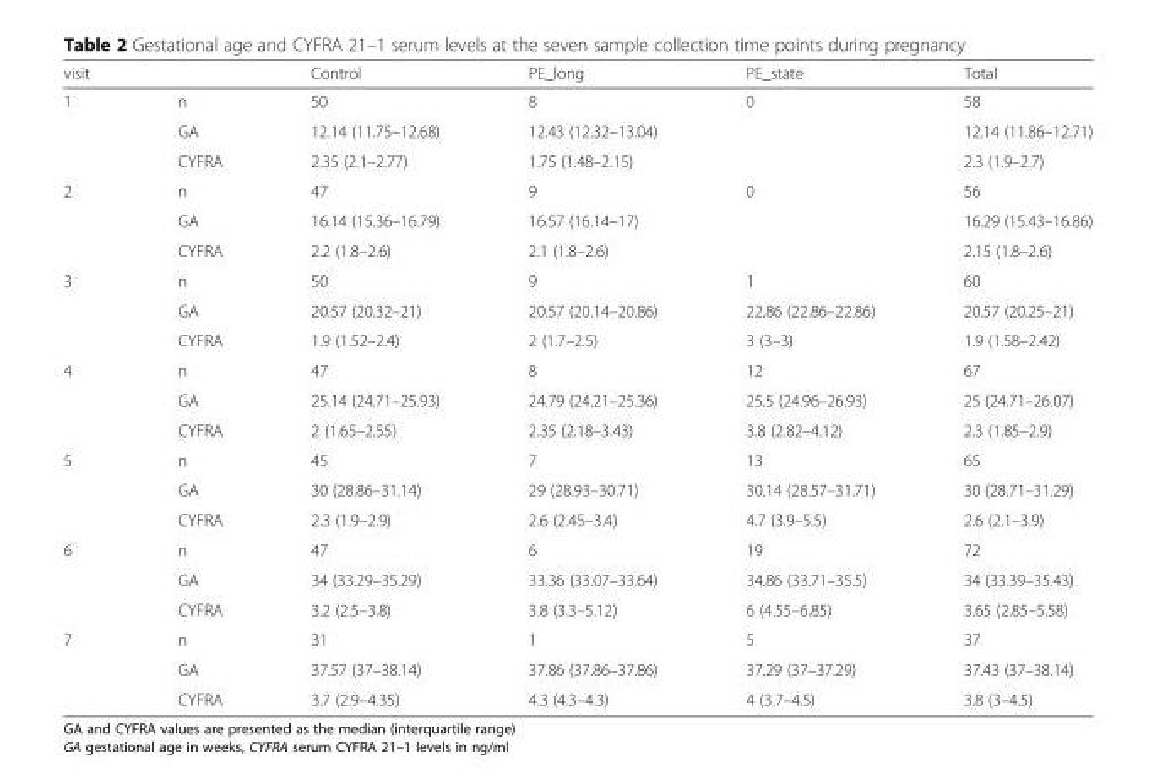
<table><thead><tr><td>visit</td><td></td><td>Control</td><td>PE_long</td><td>PE_state</td><td>Total</td></tr></thead><tbody><tr><td rowspan="3">1</td><td>n</td><td>50</td><td>8</td><td>0</td><td>58</td></tr><tr><td>GA</td><td>12.14 (11.75–12.68)</td><td>12.43 (12.32–13.04)</td><td></td><td>12.14 (11.86–12.71)</td></tr><tr><td>CYFRA</td><td>2.35 (2.1–2.77)</td><td>1.75 (1.48–2.15)</td><td></td><td>2.3 (1.9–2.7)</td></tr><tr><td rowspan="3">2</td><td>n</td><td>47</td><td>9</td><td>0</td><td>56</td></tr><tr><td>GA</td><td>16.14 (15.36–16.79)</td><td>16.57 (16.14–17)</td><td></td><td>16.29 (15.43–16.86)</td></tr><tr><td>CYFRA</td><td>2.2 (1.8–2.6)</td><td>2.1 (1.8–2.6)</td><td></td><td>2.15 (1.8–2.6)</td></tr><tr><td rowspan="3">3</td><td>n</td><td>50</td><td>9</td><td>1</td><td>60</td></tr><tr><td>GA</td><td>20.57 (20.32–21)</td><td>20.57 (20.14–20.86)</td><td>22.86 (22.86–22.86)</td><td>20.57 (20.25–21)</td></tr><tr><td>CYFRA</td><td>1.9 (1.52–2.4)</td><td>2 (1.7–2.5)</td><td>3 (3–3)</td><td>1.9 (1.58–2.42)</td></tr><tr><td rowspan="3">4</td><td>n</td><td>47</td><td>8</td><td>12</td><td>67</td></tr><tr><td>GA</td><td>25.14 (24.71–25.93)</td><td>24.79 (24.21–25.36)</td><td>25.5 (24.96–26.93)</td><td>25 (24.71–26.07)</td></tr><tr><td>CYFRA</td><td>2 (1.65–2.55)</td><td>2.35 (2.18–3.43)</td><td>3.8 (2.82–4.12)</td><td>2.3 (1.85–2.9)</td></tr><tr><td rowspan="3">5</td><td>n</td><td>45</td><td>7</td><td>13</td><td>65</td></tr><tr><td>GA</td><td>30 (28.86–31.14)</td><td>29 (28.93–30.71)</td><td>30.14 (28.57–31.71)</td><td>30 (28.71–31.29)</td></tr><tr><td>CYFRA</td><td>2.3 (1.9–2.9)</td><td>2.6 (2.45–3.4)</td><td>4.7 (3.9–5.5)</td><td>2.6 (2.1–3.9)</td></tr><tr><td rowspan="3">6</td><td>n</td><td>47</td><td>6</td><td>19</td><td>72</td></tr><tr><td>GA</td><td>34 (33.29–35.29)</td><td>33.36 (33.07–33.64)</td><td>34.86 (33.71–35.5)</td><td>34 (33.39–35.43)</td></tr><tr><td>CYFRA</td><td>3.2 (2.5–3.8)</td><td>3.8 (3.3–5.12)</td><td>6 (4.55–6.85)</td><td>3.65 (2.85–5.58)</td></tr><tr><td rowspan="3">7</td><td>n</td><td>31</td><td>1</td><td>5</td><td>37</td></tr><tr><td>GA</td><td>37.57 (37–38.14)</td><td>37.86 (37.86–37.86)</td><td>37.29 (37–37.29)</td><td>37.43 (37–38.14)</td></tr><tr><td>CYFRA</td><td>3.7 (2.9–4.35)</td><td>4.3 (4.3–4.3)</td><td>4 (3.7–4.5)</td><td>3.8 (3–4.5)</td></tr></tbody></table>